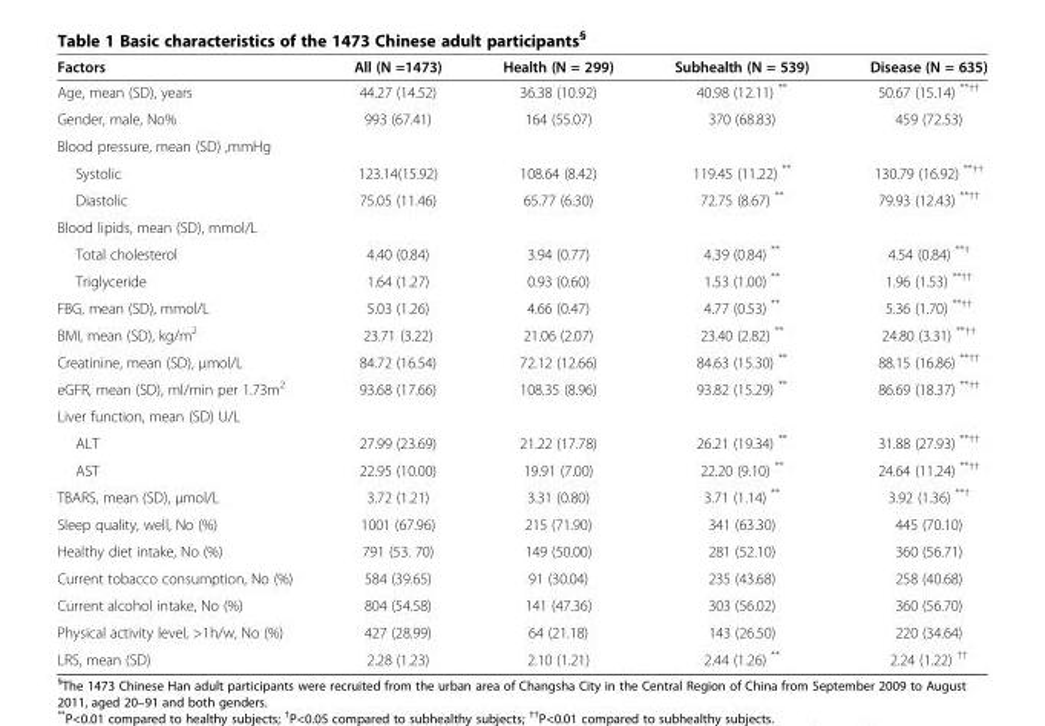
<table><thead><tr><td>Factors</td><td>All (N =1473)</td><td>Health (N = 299)</td><td>Subhealth (N = 539)</td><td>Disease (N = 635)</td></tr></thead><tbody><tr><td>Age, mean (SD), years</td><td>44.27 (14.52)</td><td>36.38 (10.92)</td><td>40.98 (12.11) **</td><td>50.67 (15.14) <sup>**††</sup></td></tr><tr><td>Gender, male, No%</td><td>993 (67.41)</td><td>164 (55.07)</td><td>370 (68.83)</td><td>459 (72.53)</td></tr><tr><td colspan="5">Blood pressure, mean (SD) ,mmHg</td></tr><tr><td>Systolic</td><td>123.14(15.92)</td><td>108.64 (8.42)</td><td>119.45 (11.22) **</td><td>130.79 (16.92) <sup>**††</sup></td></tr><tr><td>Diastolic</td><td>75.05 (11.46)</td><td>65.77 (6.30)</td><td>72.75 (8.67) **</td><td>79.93 (12.43) <sup>**††</sup></td></tr><tr><td colspan="5">Blood lipids, mean (SD), mmol/L</td></tr><tr><td>Total cholesterol</td><td>4.40 (0.84)</td><td>3.94 (0.77)</td><td>4.39 (0.84) **</td><td>4.54 (0.84) <sup>**†</sup></td></tr><tr><td>Triglyceride</td><td>1.64 (1.27)</td><td>0.93 (0.60)</td><td>1.53 (1.00) **</td><td>1.96 (1.53) <sup>**††</sup></td></tr><tr><td>FBG, mean (SD), mmol/L</td><td>5.03 (1.26)</td><td>4.66 (0.47)</td><td>4.77 (0.53) **</td><td>5.36 (1.70) <sup>**††</sup></td></tr><tr><td>BMI, mean (SD), kg/m<sup>2</sup></td><td>23.71 (3.22)</td><td>21.06 (2.07)</td><td>23.40 (2.82) **</td><td>24.80 (3.31) <sup>**††</sup></td></tr><tr><td>Creatinine, mean (SD), μmol/L</td><td>84.72 (16.54)</td><td>72.12 (12.66)</td><td>84.63 (15.30) **</td><td>88.15 (16.86) <sup>**††</sup></td></tr><tr><td>eGFR, mean (SD), ml/min per 1.73m<sup>2</sup></td><td>93.68 (17.66)</td><td>108.35 (8.96)</td><td>93.82 (15.29) **</td><td>86.69 (18.37) <sup>**††</sup></td></tr><tr><td colspan="5">Liver function, mean (SD) U/L</td></tr><tr><td>ALT</td><td>27.99 (23.69)</td><td>21.22 (17.78)</td><td>26.21 (19.34) **</td><td>31.88 (27.93) <sup>**††</sup></td></tr><tr><td>AST</td><td>22.95 (10.00)</td><td>19.91 (7.00)</td><td>22.20 (9.10) **</td><td>24.64 (11.24) <sup>**††</sup></td></tr><tr><td>TBARS, mean (SD), μmol/L</td><td>3.72 (1.21)</td><td>3.31 (0.80)</td><td>3.71 (1.14) **</td><td>3.92 (1.36) <sup>**†</sup></td></tr><tr><td>Sleep quality, well, No (%)</td><td>1001 (67.96)</td><td>215 (71.90)</td><td>341 (63.30)</td><td>445 (70.10)</td></tr><tr><td>Healthy diet intake, No (%)</td><td>791 (53. 70)</td><td>149 (50.00)</td><td>281 (52.10)</td><td>360 (56.71)</td></tr><tr><td>Current tobacco consumption, No (%)</td><td>584 (39.65)</td><td>91 (30.04)</td><td>235 (43.68)</td><td>258 (40.68)</td></tr><tr><td>Current alcohol intake, No (%)</td><td>804 (54.58)</td><td>141 (47.36)</td><td>303 (56.02)</td><td>360 (56.70)</td></tr><tr><td>Physical activity level, &gt;1h/w, No (%)</td><td>427 (28.99)</td><td>64 (21.18)</td><td>143 (26.50)</td><td>220 (34.64)</td></tr><tr><td>LRS, mean (SD)</td><td>2.28 (1.23)</td><td>2.10 (1.21)</td><td>2.44 (1.26) **</td><td>2.24 (1.22) <sup>††</sup></td></tr></tbody></table>